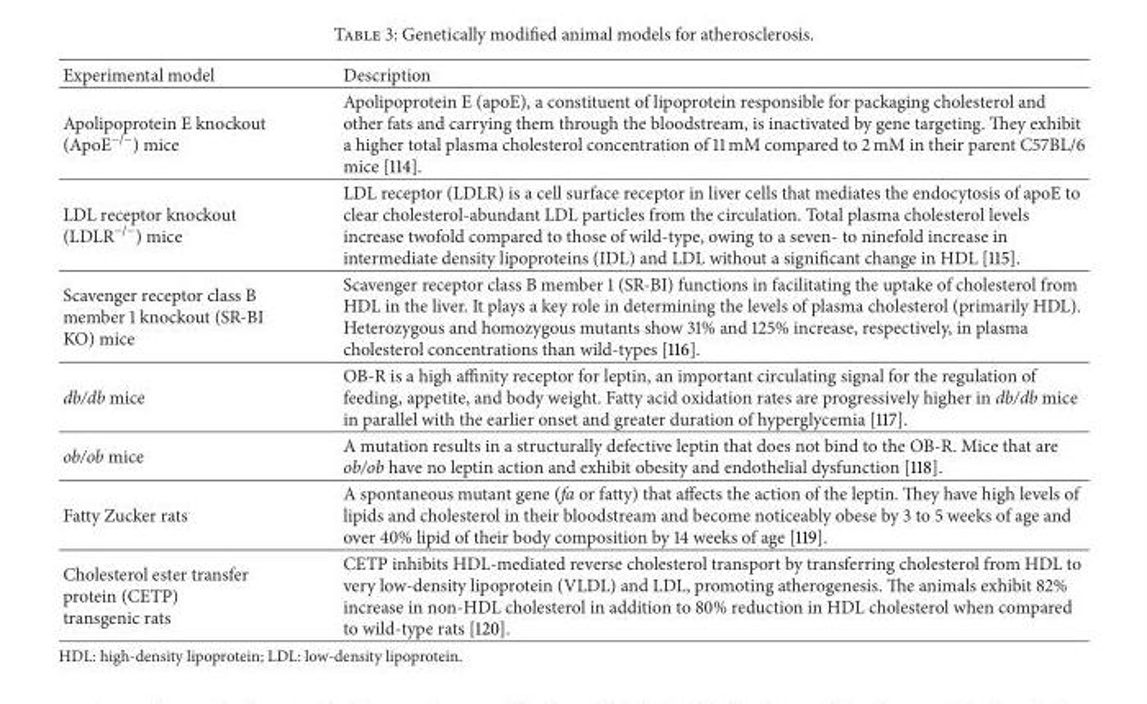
<table><thead><tr><td>Experimental model</td><td>Description</td></tr></thead><tbody><tr><td>Apolipoprotein E knockout (ApoE<sup>−/−</sup>) mice</td><td>Apolipoprotein E (apoE), a constituent of lipoprotein responsible for packaging cholesterol and other fats and carrying them through the bloodstream, is inactivated by gene targeting. They exhibit a higher total plasma cholesterol concentration of 11 mM compared to 2 mM in their parent C57BL/6 mice [114].</td></tr><tr><td>LDL receptor knockout (LDLR<sup>−/−</sup>) mice</td><td>LDL receptor (LDLR) is a cell surface receptor in liver cells that mediates the endocytosis of apoE to clear cholesterol-abundant LDL particles from the circulation. Total plasma cholesterol levels increase twofold compared to those of wild-type, owing to a seven- to ninefold increase in intermediate density lipoproteins (IDL) and LDL without a significant change in HDL [115].</td></tr><tr><td>Scavenger receptor class B member 1 knockout (SR-BI KO) mice</td><td>Scavenger receptor class B member 1 (SR-BI) functions in facilitating the uptake of cholesterol from HDL in the liver. It plays a key role in determining the levels of plasma cholesterol (primarily HDL). Heterozygous and homozygous mutants show 31% and 125% increase, respectively, in plasma cholesterol concentrations than wild-types [116].</td></tr><tr><td>db/db mice</td><td>OB-R is a high affinity receptor for leptin, an important circulating signal for the regulation of feeding, appetite, and body weight. Fatty acid oxidation rates are progressively higher in db/db mice in parallel with the earlier onset and greater duration of hyperglycemia [117].</td></tr><tr><td>ob/ob mice</td><td>A mutation results in a structurally defective leptin that does not bind to the OB-R. Mice that are ob/ob have no leptin action and exhibit obesity and endothelial dysfunction [118].</td></tr><tr><td>Fatty Zucker rats</td><td>A spontaneous mutant gene (fa or fatty) that affects the action of the leptin. They have high levels of lipids and cholesterol in their bloodstream and become noticeably obese by 3 to 5 weeks of age and over 40% lipid of their body composition by 14 weeks of age [119].</td></tr><tr><td>Cholesterol ester transfer protein (CETP) transgenic rats</td><td>CETP inhibits HDL-mediated reverse cholesterol transport by transferring cholesterol from HDL to very low-density lipoprotein (VLDL) and LDL, promoting atherogenesis. The animals exhibit 82% increase in non-HDL cholesterol in addition to 80% reduction in HDL cholesterol when compared to wild-type rats [120].</td></tr></tbody></table>